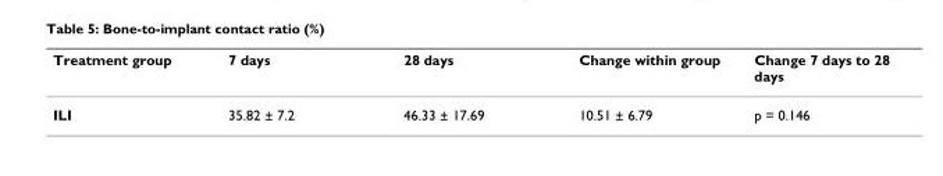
<table><thead><tr><td>Treatment group</td><td>7 days</td><td>28 days</td><td>Change within group</td><td>Change 7 days to 28 days</td></tr></thead><tbody><tr><td>ILI</td><td>35.82 ± 7.2</td><td>46.33 ± 17.69</td><td>10.51 ± 6.79</td><td>p = 0.146</td></tr></tbody></table>